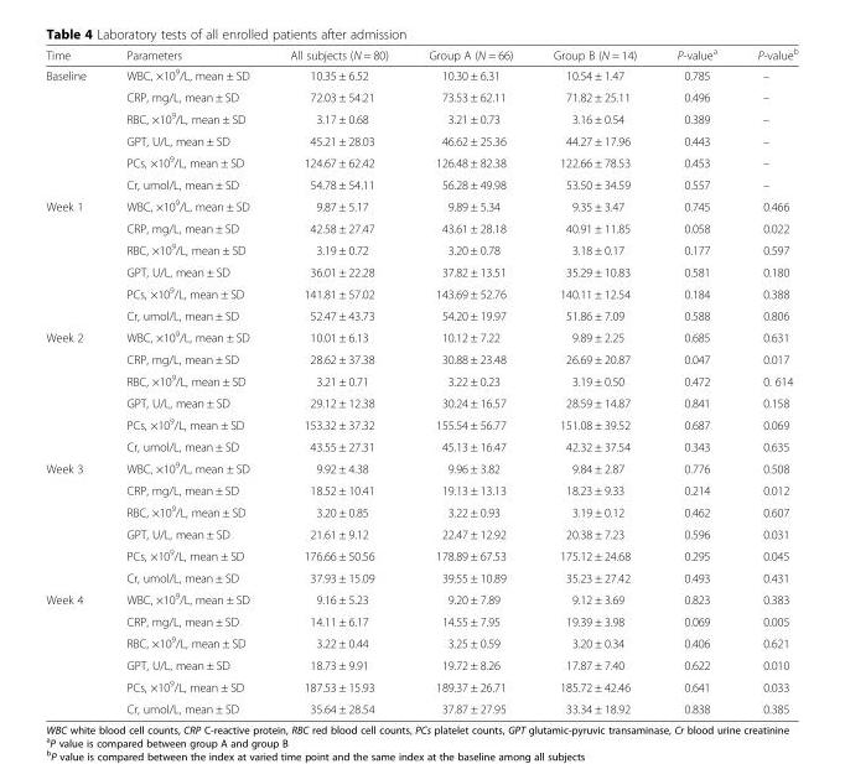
<table><thead><tr><td>Time</td><td>Parameters</td><td>All subjects (N = 80)</td><td>Group A (N = 66)</td><td>Group B (N = 14)</td><td>P-value<sup>a</sup></td><td>P-value<sup>b</sup></td></tr></thead><tbody><tr><td rowspan="6">Baseline</td><td>WBC, ×10<sup>9</sup>/L, mean ± SD</td><td>10.35 ± 6.52</td><td>10.30 ± 6.31</td><td>10.54 ± 1.47</td><td>0.785</td><td>–</td></tr><tr><td>CRP, mg/L, mean ± SD</td><td>72.03 ± 54.21</td><td>73.53 ± 62.11</td><td>71.82 ± 25.11</td><td>0.496</td><td>–</td></tr><tr><td>RBC, ×10<sup>9</sup>/L, mean ± SD</td><td>3.17 ± 0.68</td><td>3.21 ± 0.73</td><td>3.16 ± 0.54</td><td>0.389</td><td>–</td></tr><tr><td>GPT, U/L, mean ± SD</td><td>45.21 ± 28.03</td><td>46.62 ± 25.36</td><td>44.27 ± 17.96</td><td>0.443</td><td>–</td></tr><tr><td>PCs, ×10<sup>9</sup>/L, mean ± SD</td><td>124.67 ± 62.42</td><td>126.48 ± 82.38</td><td>122.66 ± 78.53</td><td>0.453</td><td>–</td></tr><tr><td>Cr, umol/L, mean ± SD</td><td>54.78 ± 54.11</td><td>56.28 ± 49.98</td><td>53.50 ± 34.59</td><td>0.557</td><td>–</td></tr><tr><td rowspan="6">Week 1</td><td>WBC, ×10<sup>9</sup>/L, mean ± SD</td><td>9.87 ± 5.17</td><td>9.89 ± 5.34</td><td>9.35 ± 3.47</td><td>0.745</td><td>0.466</td></tr><tr><td>CRP, mg/L, mean ± SD</td><td>42.58 ± 27.47</td><td>43.61 ± 28.18</td><td>40.91 ± 11.85</td><td>0.058</td><td>0.022</td></tr><tr><td>RBC, ×10<sup>9</sup>/L, mean ± SD</td><td>3.19 ± 0.72</td><td>3.20 ± 0.78</td><td>3.18 ± 0.17</td><td>0.177</td><td>0.597</td></tr><tr><td>GPT, U/L, mean ± SD</td><td>36.01 ± 22.28</td><td>37.82 ± 13.51</td><td>35.29 ± 10.83</td><td>0.581</td><td>0.180</td></tr><tr><td>PCs, ×10<sup>9</sup>/L, mean ± SD</td><td>141.81 ± 57.02</td><td>143.69 ± 52.76</td><td>140.11 ± 12.54</td><td>0.184</td><td>0.388</td></tr><tr><td>Cr, umol/L, mean ± SD</td><td>52.47 ± 43.73</td><td>54.20 ± 19.97</td><td>51.86 ± 7.09</td><td>0.588</td><td>0.806</td></tr><tr><td rowspan="6">Week 2</td><td>WBC, ×10<sup>9</sup>/L, mean ± SD</td><td>10.01 ± 6.13</td><td>10.12 ± 7.22</td><td>9.89 ± 2.25</td><td>0.685</td><td>0.631</td></tr><tr><td>CRP, mg/L, mean ± SD</td><td>28.62 ± 37.38</td><td>30.88 ± 23.48</td><td>26.69 ± 20.87</td><td>0.047</td><td>0.017</td></tr><tr><td>RBC, ×10<sup>9</sup>/L, mean ± SD</td><td>3.21 ± 0.71</td><td>3.22 ± 0.23</td><td>3.19 ± 0.50</td><td>0.472</td><td>0. 614</td></tr><tr><td>GPT, U/L, mean ± SD</td><td>29.12 ± 12.38</td><td>30.24 ± 16.57</td><td>28.59 ± 14.87</td><td>0.841</td><td>0.158</td></tr><tr><td>PCs, ×10<sup>9</sup>/L, mean ± SD</td><td>153.32 ± 37.32</td><td>155.54 ± 56.77</td><td>151.08 ± 39.52</td><td>0.687</td><td>0.069</td></tr><tr><td>Cr, umol/L, mean ± SD</td><td>43.55 ± 27.31</td><td>45.13 ± 16.47</td><td>42.32 ± 37.54</td><td>0.343</td><td>0.635</td></tr><tr><td rowspan="6">Week 3</td><td>WBC, ×10<sup>9</sup>/L, mean ± SD</td><td>9.92 ± 4.38</td><td>9.96 ± 3.82</td><td>9.84 ± 2.87</td><td>0.776</td><td>0.508</td></tr><tr><td>CRP, mg/L, mean ± SD</td><td>18.52 ± 10.41</td><td>19.13 ± 13.13</td><td>18.23 ± 9.33</td><td>0.214</td><td>0.012</td></tr><tr><td>RBC, ×10<sup>9</sup>/L, mean ± SD</td><td>3.20 ± 0.85</td><td>3.22 ± 0.93</td><td>3.19 ± 0.12</td><td>0.462</td><td>0.607</td></tr><tr><td>GPT, U/L, mean ± SD</td><td>21.61 ± 9.12</td><td>22.47 ± 12.92</td><td>20.38 ± 7.23</td><td>0.596</td><td>0.031</td></tr><tr><td>PCs, ×10<sup>9</sup>/L, mean ± SD</td><td>176.66 ± 50.56</td><td>178.89 ± 67.53</td><td>175.12 ± 24.68</td><td>0.295</td><td>0.045</td></tr><tr><td>Cr, umol/L, mean ± SD</td><td>37.93 ± 15.09</td><td>39.55 ± 10.89</td><td>35.23 ± 27.42</td><td>0.493</td><td>0.431</td></tr><tr><td rowspan="6">Week 4</td><td>WBC, ×10<sup>9</sup>/L, mean ± SD</td><td>9.16 ± 5.23</td><td>9.20 ± 7.89</td><td>9.12 ± 3.69</td><td>0.823</td><td>0.383</td></tr><tr><td>CRP, mg/L, mean ± SD</td><td>14.11 ± 6.17</td><td>14.55 ± 7.95</td><td>19.39 ± 3.98</td><td>0.069</td><td>0.005</td></tr><tr><td>RBC, ×10<sup>9</sup>/L, mean ± SD</td><td>3.22 ± 0.44</td><td>3.25 ± 0.59</td><td>3.20 ± 0.34</td><td>0.406</td><td>0.621</td></tr><tr><td>GPT, U/L, mean ± SD</td><td>18.73 ± 9.91</td><td>19.72 ± 8.26</td><td>17.87 ± 7.40</td><td>0.622</td><td>0.010</td></tr><tr><td>PCs, ×10<sup>9</sup>/L, mean ± SD</td><td>187.53 ± 15.93</td><td>189.37 ± 26.71</td><td>185.72 ± 42.46</td><td>0.641</td><td>0.033</td></tr><tr><td>Cr, umol/L, mean ± SD</td><td>35.64 ± 28.54</td><td>37.87 ± 27.95</td><td>33.34 ± 18.92</td><td>0.838</td><td>0.385</td></tr></tbody></table>